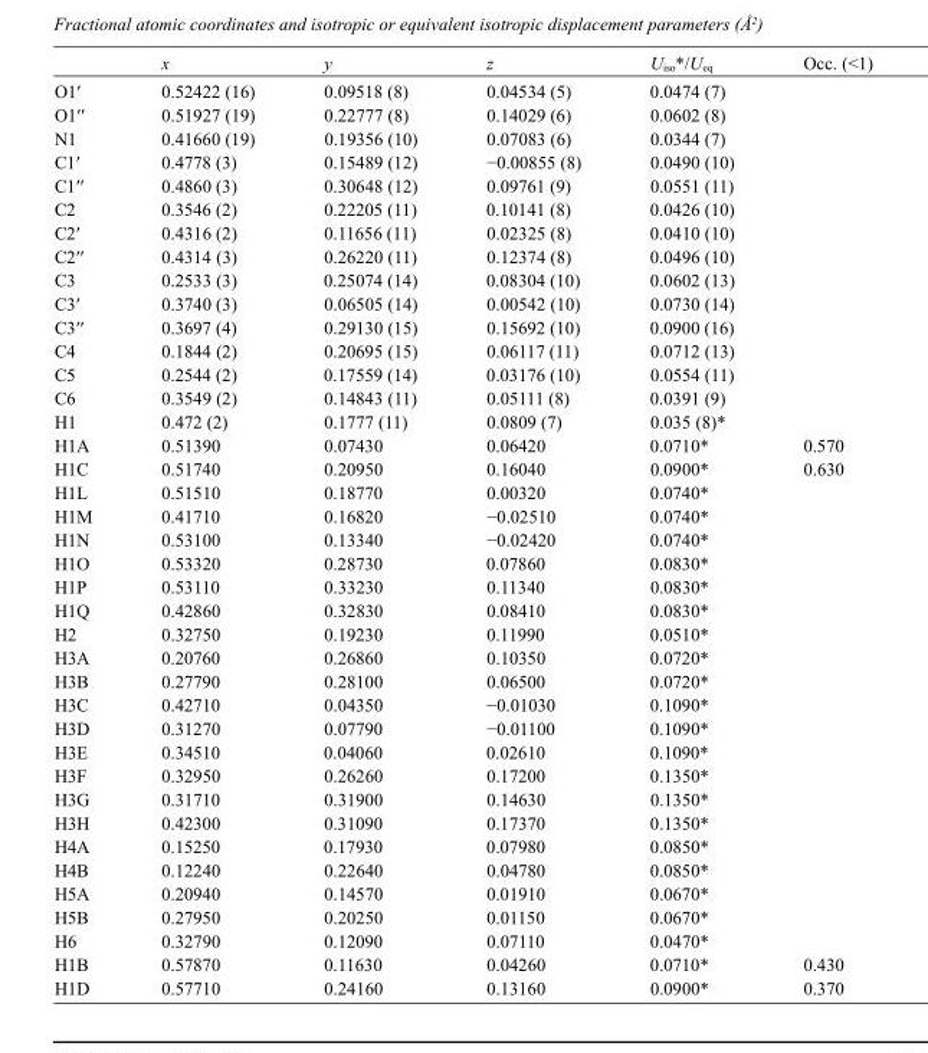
<table><thead><tr><td></td><td>x</td><td>y</td><td>z</td><td>U<sub>iso</sub>*/U<sub>eq</sub></td><td>Occ. (&lt;1)</td></tr></thead><tbody><tr><td>O1′</td><td>0.52422 (16)</td><td>0.09518 (8)</td><td>0.04534 (5)</td><td>0.0474 (7)</td><td></td></tr><tr><td>O1′′</td><td>0.51927 (19)</td><td>0.22777 (8)</td><td>0.14029 (6)</td><td>0.0602 (8)</td><td></td></tr><tr><td>N1</td><td>0.41660 (19)</td><td>0.19356 (10)</td><td>0.07083 (6)</td><td>0.0344 (7)</td><td></td></tr><tr><td>C1′</td><td>0.4778 (3)</td><td>0.15489 (12)</td><td>−0.00855 (8)</td><td>0.0490 (10)</td><td></td></tr><tr><td>C1′′</td><td>0.4860 (3)</td><td>0.30648 (12)</td><td>0.09761 (9)</td><td>0.0551 (11)</td><td></td></tr><tr><td>C2</td><td>0.3546 (2)</td><td>0.22205 (11)</td><td>0.10141 (8)</td><td>0.0426 (10)</td><td></td></tr><tr><td>C2′</td><td>0.4316 (2)</td><td>0.11656 (11)</td><td>0.02325 (8)</td><td>0.0410 (10)</td><td></td></tr><tr><td>C2′′</td><td>0.4314 (3)</td><td>0.26220 (11)</td><td>0.12374 (8)</td><td>0.0496 (10)</td><td></td></tr><tr><td>C3</td><td>0.2533 (3)</td><td>0.25074 (14)</td><td>0.08304 (10)</td><td>0.0602 (13)</td><td></td></tr><tr><td>C3′</td><td>0.3740 (3)</td><td>0.06505 (14)</td><td>0.00542 (10)</td><td>0.0730 (14)</td><td></td></tr><tr><td>C3′′</td><td>0.3697 (4)</td><td>0.29130 (15)</td><td>0.15692 (10)</td><td>0.0900 (16)</td><td></td></tr><tr><td>C4</td><td>0.1844 (2)</td><td>0.20695 (15)</td><td>0.06117 (11)</td><td>0.0712 (13)</td><td></td></tr><tr><td>C5</td><td>0.2544 (2)</td><td>0.17559 (14)</td><td>0.03176 (10)</td><td>0.0554 (11)</td><td></td></tr><tr><td>C6</td><td>0.3549 (2)</td><td>0.14843 (11)</td><td>0.05111 (8)</td><td>0.0391 (9)</td><td></td></tr><tr><td>H1</td><td>0.472 (2)</td><td>0.1777 (11)</td><td>0.0809 (7)</td><td>0.035 (8)*</td><td></td></tr><tr><td>H1A</td><td>0.51390</td><td>0.07430</td><td>0.06420</td><td>0.0710*</td><td>0.570</td></tr><tr><td>H1C</td><td>0.51740</td><td>0.20950</td><td>0.16040</td><td>0.0900*</td><td>0.630</td></tr><tr><td>H1L</td><td>0.51510</td><td>0.18770</td><td>0.00320</td><td>0.0740*</td><td></td></tr><tr><td>H1M</td><td>0.41710</td><td>0.16820</td><td>−0.02510</td><td>0.0740*</td><td></td></tr><tr><td>H1N</td><td>0.53100</td><td>0.13340</td><td>−0.02420</td><td>0.0740*</td><td></td></tr><tr><td>H1O</td><td>0.53320</td><td>0.28730</td><td>0.07860</td><td>0.0830*</td><td></td></tr><tr><td>H1P</td><td>0.53110</td><td>0.33230</td><td>0.11340</td><td>0.0830*</td><td></td></tr><tr><td>H1Q</td><td>0.42860</td><td>0.32830</td><td>0.08410</td><td>0.0830*</td><td></td></tr><tr><td>H2</td><td>0.32750</td><td>0.19230</td><td>0.11990</td><td>0.0510*</td><td></td></tr><tr><td>H3A</td><td>0.20760</td><td>0.26860</td><td>0.10350</td><td>0.0720*</td><td></td></tr><tr><td>H3B</td><td>0.27790</td><td>0.28100</td><td>0.06500</td><td>0.0720*</td><td></td></tr><tr><td>H3C</td><td>0.42710</td><td>0.04350</td><td>−0.01030</td><td>0.1090*</td><td></td></tr><tr><td>H3D</td><td>0.31270</td><td>0.07790</td><td>−0.01100</td><td>0.1090*</td><td></td></tr><tr><td>H3E</td><td>0.34510</td><td>0.04060</td><td>0.02610</td><td>0.1090*</td><td></td></tr><tr><td>H3F</td><td>0.32950</td><td>0.26260</td><td>0.17200</td><td>0.1350*</td><td></td></tr><tr><td>H3G</td><td>0.31710</td><td>0.31900</td><td>0.14630</td><td>0.1350*</td><td></td></tr><tr><td>H3H</td><td>0.42300</td><td>0.31090</td><td>0.17370</td><td>0.1350*</td><td></td></tr><tr><td>H4A</td><td>0.15250</td><td>0.17930</td><td>0.07980</td><td>0.0850*</td><td></td></tr><tr><td>H4B</td><td>0.12240</td><td>0.22640</td><td>0.04780</td><td>0.0850*</td><td></td></tr><tr><td>H5A</td><td>0.20940</td><td>0.14570</td><td>0.01910</td><td>0.0670*</td><td></td></tr><tr><td>H5B</td><td>0.27950</td><td>0.20250</td><td>0.01150</td><td>0.0670*</td><td></td></tr><tr><td>H6</td><td>0.32790</td><td>0.12090</td><td>0.07110</td><td>0.0470*</td><td></td></tr><tr><td>H1B</td><td>0.57870</td><td>0.11630</td><td>0.04260</td><td>0.0710*</td><td>0.430</td></tr><tr><td>H1D</td><td>0.57710</td><td>0.24160</td><td>0.13160</td><td>0.0900*</td><td>0.370</td></tr></tbody></table>